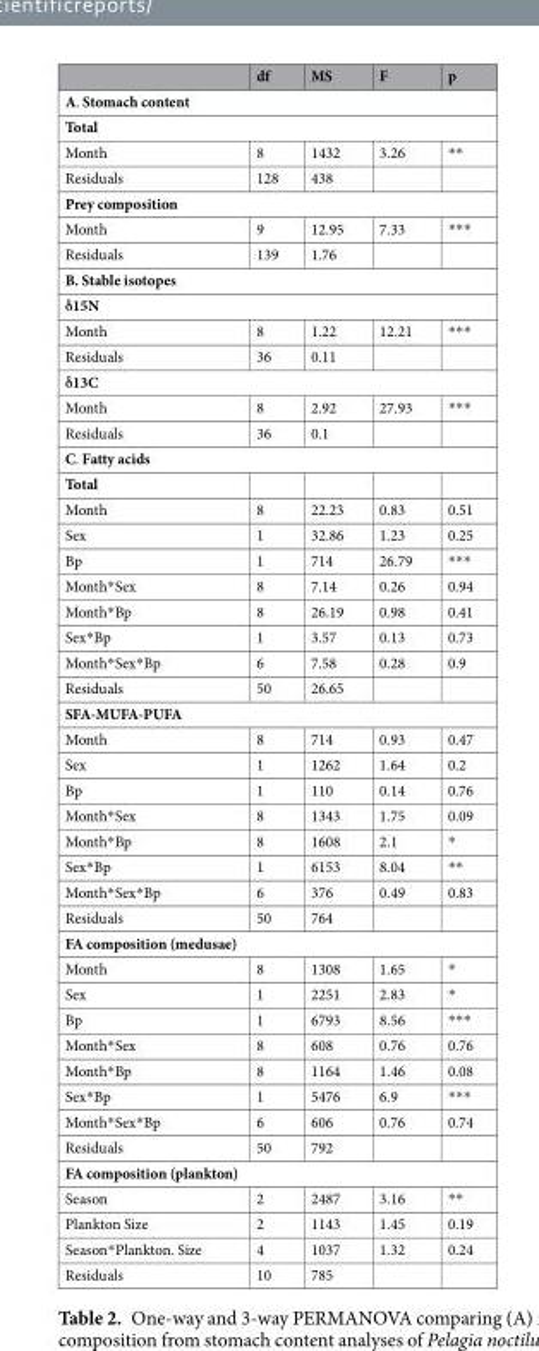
<table><thead><tr><td></td><td>df</td><td>MS</td><td>F</td><td>p</td></tr></thead><tbody><tr><td colspan="5">A. Stomach content</td></tr><tr><td colspan="5">Total</td></tr><tr><td>Month</td><td>8</td><td>1432</td><td>3.26</td><td>**</td></tr><tr><td>Residuals</td><td>128</td><td>438</td><td></td><td></td></tr><tr><td colspan="5">Prey composition</td></tr><tr><td>Month</td><td>9</td><td>12.95</td><td>7.33</td><td>***</td></tr><tr><td>Residuals</td><td>139</td><td>1.76</td><td></td><td></td></tr><tr><td colspan="5">B. Stable isotopes</td></tr><tr><td colspan="5">δ15N</td></tr><tr><td>Month</td><td>8</td><td>1.22</td><td>12.21</td><td>***</td></tr><tr><td>Residuals</td><td>36</td><td>0.11</td><td></td><td></td></tr><tr><td colspan="5">δ13C</td></tr><tr><td>Month</td><td>8</td><td>2.92</td><td>27.93</td><td>***</td></tr><tr><td>Residuals</td><td>36</td><td>0.1</td><td></td><td></td></tr><tr><td colspan="5">C. Fatty acids</td></tr><tr><td colspan="5">Total</td></tr><tr><td>Month</td><td>8</td><td>22.23</td><td>0.83</td><td>0.51</td></tr><tr><td>Sex</td><td>1</td><td>32.86</td><td>1.23</td><td>0.25</td></tr><tr><td>Bp</td><td>1</td><td>714</td><td>26.79</td><td>***</td></tr><tr><td>Month*Sex</td><td>8</td><td>7.14</td><td>0.26</td><td>0.94</td></tr><tr><td>Month*Bp</td><td>8</td><td>26.19</td><td>0.98</td><td>0.41</td></tr><tr><td>Sex*Bp</td><td>1</td><td>3.57</td><td>0.13</td><td>0.73</td></tr><tr><td>Month*Sex*Bp</td><td>6</td><td>7.58</td><td>0.28</td><td>0.9</td></tr><tr><td>Residuals</td><td>50</td><td>26.65</td><td></td><td></td></tr><tr><td colspan="5">SFA-MUFA-PUFA</td></tr><tr><td>Month</td><td>8</td><td>714</td><td>0.93</td><td>0.47</td></tr><tr><td>Sex</td><td>1</td><td>1262</td><td>1.64</td><td>0.2</td></tr><tr><td>Bp</td><td>1</td><td>110</td><td>0.14</td><td>0.76</td></tr><tr><td>Month*Sex</td><td>8</td><td>1343</td><td>1.75</td><td>0.09</td></tr><tr><td>Month*Bp</td><td>8</td><td>1608</td><td>2.1</td><td>*</td></tr><tr><td>Sex*Bp</td><td>1</td><td>6153</td><td>8.04</td><td>**</td></tr><tr><td>Month*Sex*Bp</td><td>6</td><td>376</td><td>0.49</td><td>0.83</td></tr><tr><td>Residuals</td><td>50</td><td>764</td><td></td><td></td></tr><tr><td colspan="5">FA composition (medusae)</td></tr><tr><td>Month</td><td>8</td><td>1308</td><td>1.65</td><td>*</td></tr><tr><td>Sex</td><td>1</td><td>2251</td><td>2.83</td><td>*</td></tr><tr><td>Bp</td><td>1</td><td>6793</td><td>8.56</td><td>***</td></tr><tr><td>Month*Sex</td><td>8</td><td>608</td><td>0.76</td><td>0.76</td></tr><tr><td>Month*Bp</td><td>8</td><td>1164</td><td>1.46</td><td>0.08</td></tr><tr><td>Sex*Bp</td><td>1</td><td>5476</td><td>6.9</td><td>***</td></tr><tr><td>Month*Sex*Bp</td><td>6</td><td>606</td><td>0.76</td><td>0.74</td></tr><tr><td>Residuals</td><td>50</td><td>792</td><td></td><td></td></tr><tr><td colspan="5">FA composition (plankton)</td></tr><tr><td>Season</td><td>2</td><td>2487</td><td>3.16</td><td>**</td></tr><tr><td>Plankton Size</td><td>2</td><td>1143</td><td>1.45</td><td>0.19</td></tr><tr><td>Season*Plankton. Size</td><td>4</td><td>1037</td><td>1.32</td><td>0.24</td></tr><tr><td>Residuals</td><td>10</td><td>785</td><td></td><td></td></tr></tbody></table>